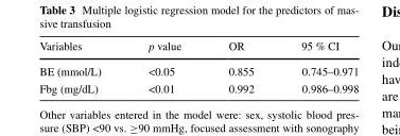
<table><thead><tr><td>Variables</td><td>p value</td><td>OR</td><td>95 % CI</td></tr></thead><tbody><tr><td>BE (mmol/L)</td><td>&lt;0.05</td><td>0.855</td><td>0.745–0.971</td></tr><tr><td>Fbg (mg/dL)</td><td>&lt;0.01</td><td>0.992</td><td>0.986–0.998</td></tr></tbody></table>